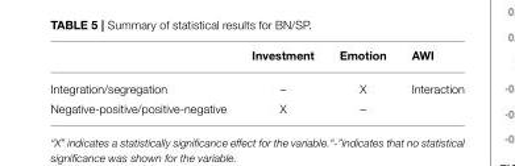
<table><thead><tr><td></td><td>Investment</td><td>Emotion</td><td>AWI</td></tr></thead><tbody><tr><td>Integration/segregation</td><td>–</td><td>X</td><td>Interaction</td></tr><tr><td>Negative-positive/positive-negative</td><td>X</td><td>–</td><td></td></tr></tbody></table>